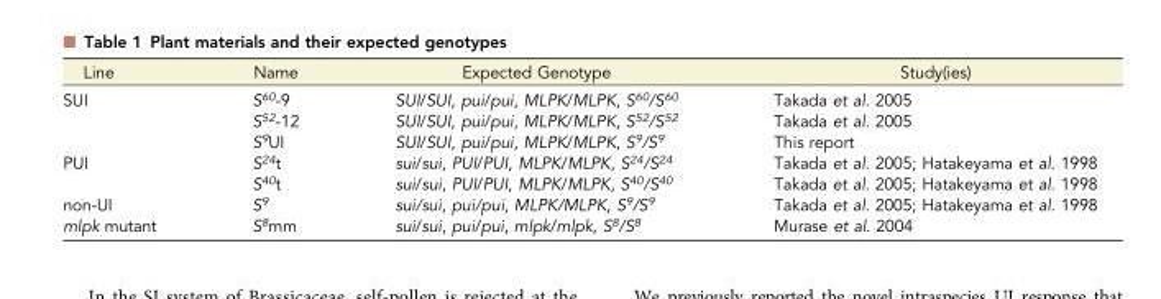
<table><thead><tr><td>Line</td><td>Name</td><td>Expected Genotype</td><td>Study(ies)</td></tr></thead><tbody><tr><td rowspan="3">SUI</td><td>S<sup>60</sup>-9</td><td>SUI/SUI, pui/pui, MLPK/MLPK, S<sup>60</sup>/S<sup>60</sup></td><td>Takada et al. 2005</td></tr><tr><td>S<sup>52</sup>-12</td><td>SUI/SUI, pui/pui, MLPK/MLPK, S<sup>52</sup>/S<sup>52</sup></td><td>Takada et al. 2005</td></tr><tr><td>S<sup>9</sup>UI</td><td>SUI/SUI, pui/pui, MLPK/MLPK, S<sup>9</sup>/S<sup>9</sup></td><td>This report</td></tr><tr><td rowspan="2">PUI</td><td>S<sup>24</sup>t</td><td>sui/sui, PUI/PUI, MLPK/MLPK, S<sup>24</sup>/S<sup>24</sup></td><td>Takada et al. 2005; Hatakeyama et al. 1998</td></tr><tr><td>S<sup>40</sup>t</td><td>sui/sui, PUI/PUI, MLPK/MLPK, S<sup>40</sup>/S<sup>40</sup></td><td>Takada et al. 2005; Hatakeyama et al. 1998</td></tr><tr><td>non-UI</td><td>S<sup>9</sup></td><td>sui/sui, pui/pui, MLPK/MLPK, S<sup>9</sup>/S<sup>9</sup></td><td>Takada et al. 2005; Hatakeyama et al. 1998</td></tr><tr><td>mlpk mutant</td><td>S<sup>8</sup>mm</td><td>sui/sui, pui/pui, mlpk/mlpk, S<sup>8</sup>/S<sup>8</sup></td><td>Murase et al. 2004</td></tr></tbody></table>